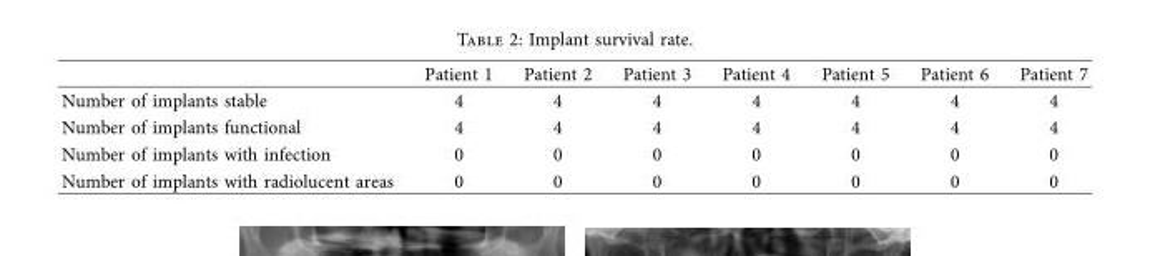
<table><thead><tr><td></td><td>Patient 1</td><td>Patient 2</td><td>Patient 3</td><td>Patient 4</td><td>Patient 5</td><td>Patient 6</td><td>Patient 7</td></tr></thead><tbody><tr><td>Number of implants stable</td><td>4</td><td>4</td><td>4</td><td>4</td><td>4</td><td>4</td><td>4</td></tr><tr><td>Number of implants functional</td><td>4</td><td>4</td><td>4</td><td>4</td><td>4</td><td>4</td><td>4</td></tr><tr><td>Number of implants with infection</td><td>0</td><td>0</td><td>0</td><td>0</td><td>0</td><td>0</td><td>0</td></tr><tr><td>Number of implants with radiolucent areas</td><td>0</td><td>0</td><td>0</td><td>0</td><td>0</td><td>0</td><td>0</td></tr></tbody></table>